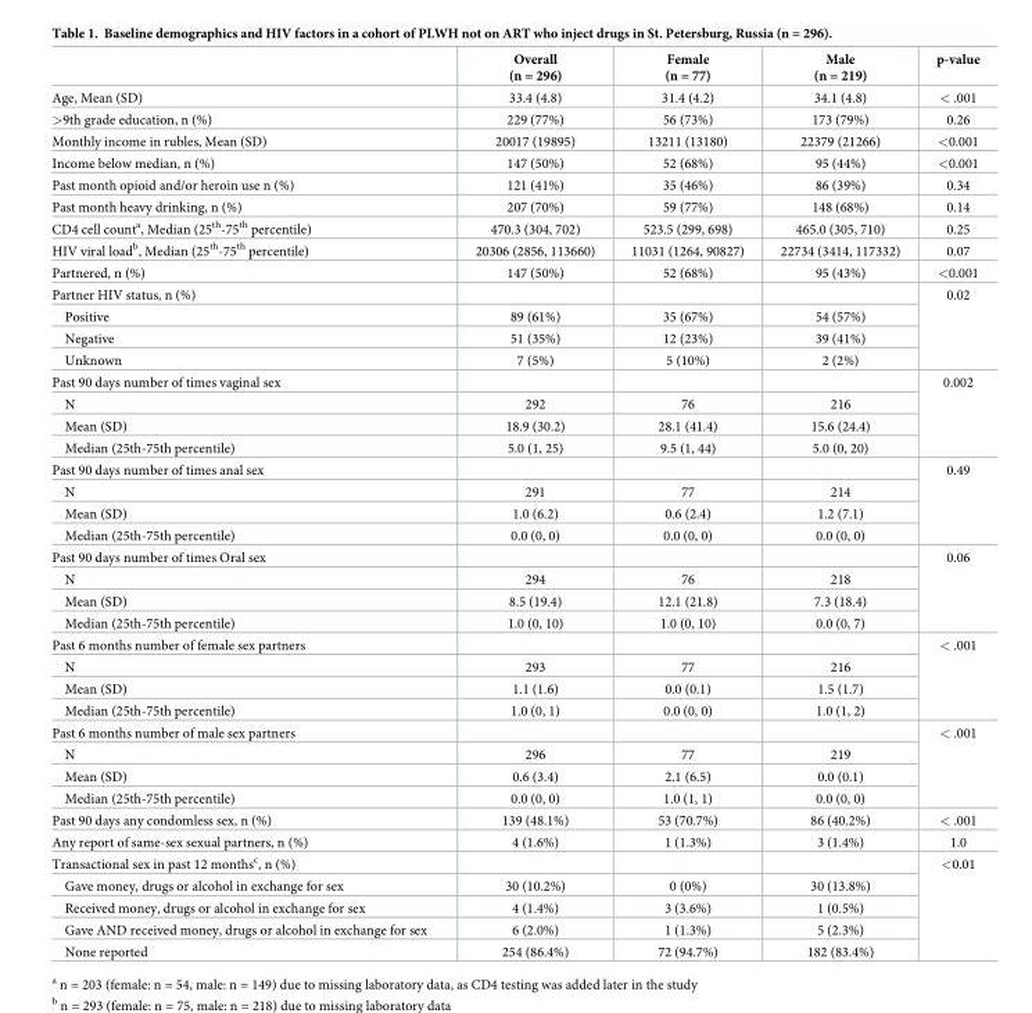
<table><thead><tr><td></td><td>Overall (n = 296)</td><td>Female (n = 77)</td><td>Male (n = 219)</td><td>p-value</td></tr></thead><tbody><tr><td>Age, Mean (SD)</td><td>33.4 (4.8)</td><td>31.4 (4.2)</td><td>34.1 (4.8)</td><td>&lt; .001</td></tr><tr><td>&gt;9th grade education, n (%)</td><td>229 (77%)</td><td>56 (73%)</td><td>173 (79%)</td><td>0.26</td></tr><tr><td>Monthly income in rubles, Mean (SD)</td><td>20017 (19895)</td><td>13211 (13180)</td><td>22379 (21266)</td><td>&lt;0.001</td></tr><tr><td>Income below median, n (%)</td><td>147 (50%)</td><td>52 (68%)</td><td>95 (44%)</td><td>&lt;0.001</td></tr><tr><td>Past month opioid and/or heroin use n (%)</td><td>121 (41%)</td><td>35 (46%)</td><td>86 (39%)</td><td>0.34</td></tr><tr><td>Past month heavy drinking, n (%)</td><td>207 (70%)</td><td>59 (77%)</td><td>148 (68%)</td><td>0.14</td></tr><tr><td>CD4 cell count<sup>a</sup>, Median (25<sup>th</sup>-75<sup>th</sup> percentile)</td><td>470.3 (304, 702)</td><td>523.5 (299, 698)</td><td>465.0 (305, 710)</td><td>0.25</td></tr><tr><td>HIV viral load<sup>b</sup>, Median (25<sup>th</sup>-75<sup>th</sup> percentile)</td><td>20306 (2856, 113660)</td><td>11031 (1264, 90827)</td><td>22734 (3414, 117332)</td><td>0.07</td></tr><tr><td>Partnered, n (%)</td><td>147 (50%)</td><td>52 (68%)</td><td>95 (43%)</td><td>&lt;0.001</td></tr><tr><td colspan="4">Partner HIV status, n (%)</td><td rowspan="4">0.02</td></tr><tr><td>Positive</td><td>89 (61%)</td><td>35 (67%)</td><td>54 (57%)</td></tr><tr><td>Negative</td><td>51 (35%)</td><td>12 (23%)</td><td>39 (41%)</td></tr><tr><td>Unknown</td><td>7 (5%)</td><td>5 (10%)</td><td>2 (2%)</td></tr><tr><td colspan="4">Past 90 days number of times vaginal sex</td><td rowspan="4">0.002</td></tr><tr><td>N</td><td>292</td><td>76</td><td>216</td></tr><tr><td>Mean (SD)</td><td>18.9 (30.2)</td><td>28.1 (41.4)</td><td>15.6 (24.4)</td></tr><tr><td>Median (25th-75th percentile)</td><td>5.0 (1, 25)</td><td>9.5 (1, 44)</td><td>5.0 (0, 20)</td></tr><tr><td colspan="4">Past 90 days number of times anal sex</td><td rowspan="4">0.49</td></tr><tr><td>N</td><td>291</td><td>77</td><td>214</td></tr><tr><td>Mean (SD)</td><td>1.0 (6.2)</td><td>0.6 (2.4)</td><td>1.2 (7.1)</td></tr><tr><td>Median (25th-75th percentile)</td><td>0.0 (0, 0)</td><td>0.0 (0, 0)</td><td>0.0 (0, 0)</td></tr><tr><td colspan="4">Past 90 days number of times Oral sex</td><td rowspan="4">0.06</td></tr><tr><td>N</td><td>294</td><td>76</td><td>218</td></tr><tr><td>Mean (SD)</td><td>8.5 (19.4)</td><td>12.1 (21.8)</td><td>7.3 (18.4)</td></tr><tr><td>Median (25th-75th percentile)</td><td>1.0 (0, 10)</td><td>1.0 (0, 10)</td><td>0.0 (0, 7)</td></tr><tr><td colspan="4">Past 6 months number of female sex partners</td><td rowspan="4">&lt; .001</td></tr><tr><td>N</td><td>293</td><td>77</td><td>216</td></tr><tr><td>Mean (SD)</td><td>1.1 (1.6)</td><td>0.0 (0.1)</td><td>1.5 (1.7)</td></tr><tr><td>Median (25th-75th percentile)</td><td>1.0 (0, 1)</td><td>0.0 (0, 0)</td><td>1.0 (1, 2)</td></tr><tr><td colspan="4">Past 6 months number of male sex partners</td><td rowspan="4">&lt; .001</td></tr><tr><td>N</td><td>296</td><td>77</td><td>219</td></tr><tr><td>Mean (SD)</td><td>0.6 (3.4)</td><td>2.1 (6.5)</td><td>0.0 (0.1)</td></tr><tr><td>Median (25th-75th percentile)</td><td>0.0 (0, 0)</td><td>1.0 (1, 1)</td><td>0.0 (0, 0)</td></tr><tr><td>Past 90 days any condomless sex, n (%)</td><td>139 (48.1%)</td><td>53 (70.7%)</td><td>86 (40.2%)</td><td>&lt; .001</td></tr><tr><td>Any report of same-sex sexual partners, n (%)</td><td>4 (1.6%)</td><td>1 (1.3%)</td><td>3 (1.4%)</td><td>1.0</td></tr><tr><td colspan="4">Transactional sex in past 12 months<sup>c</sup>, n (%)</td><td rowspan="5">&lt;0.01</td></tr><tr><td>Gave money, drugs or alcohol in exchange for sex</td><td>30 (10.2%)</td><td>0 (0%)</td><td>30 (13.8%)</td></tr><tr><td>Received money, drugs or alcohol in exchange for sex</td><td>4 (1.4%)</td><td>3 (3.6%)</td><td>1 (0.5%)</td></tr><tr><td>Gave AND received money, drugs or alcohol in exchange for sex</td><td>6 (2.0%)</td><td>1 (1.3%)</td><td>5 (2.3%)</td></tr><tr><td>None reported</td><td>254 (86.4%)</td><td>72 (94.7%)</td><td>182 (83.4%)</td></tr></tbody></table>